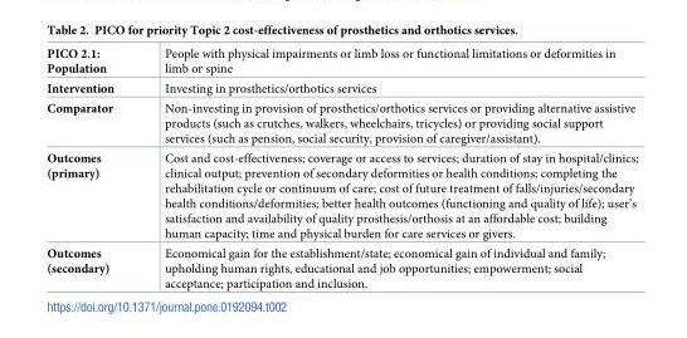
<table><tbody><tr><td>PICO 2.1: Population</td><td>People with physical impairments or limb loss or functional limitations or deformities in limb or spine</td></tr><tr><td>Intervention</td><td>Investing in prosthetics/orthotics services</td></tr><tr><td>Comparator</td><td>Non-investing in provision of prosthetics/orthotics services or providing alternative assistive products (such as crutches, walkers, wheelchairs, tricycles) or providing social support services (such as pension, social security, provision of caregiver/assistant).</td></tr><tr><td>Outcomes (primary)</td><td>Cost and cost-effectiveness; coverage or access to services; duration of stay in hospital/clinics; clinical output; prevention of secondary deformities or health conditions; completing the rehabilitation cycle or continuum of care; cost of future treatment of falls/injuries/secondary health conditions/deformities; better health outcomes (functioning and quality of life); user’s satisfaction and availability of quality prosthesis/orthosis at an affordable cost; building human capacity; time and physical burden for care services or givers.</td></tr><tr><td>Outcomes (secondary)</td><td>Economical gain for the establishment/state; economical gain of individual and family; upholding human rights, educational and job opportunities; empowerment; social acceptance; participation and inclusion.</td></tr></tbody></table>